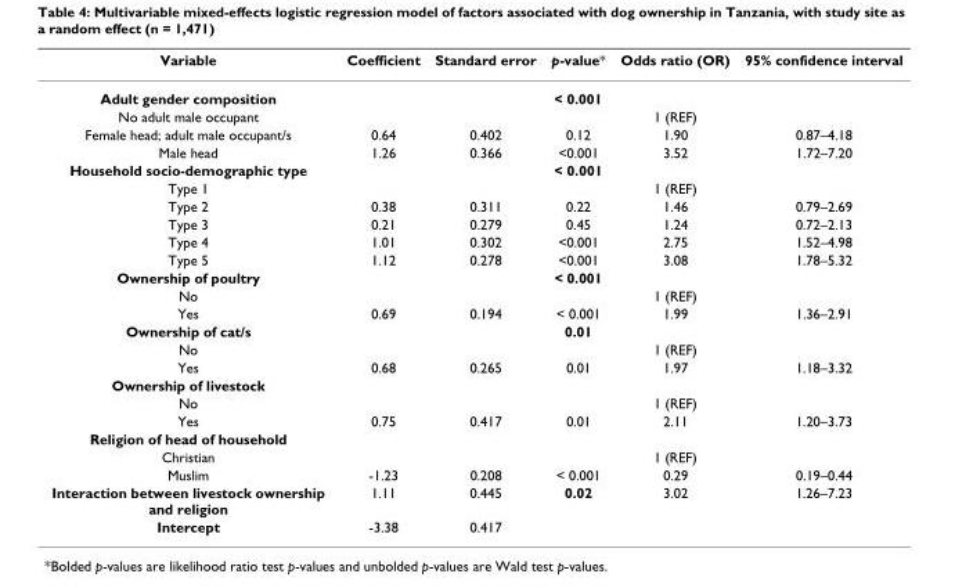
<table><thead><tr><td>Variable</td><td>Coefficient</td><td>Standard error</td><td>p-value*</td><td>Odds ratio (OR)</td><td>95% confidence interval</td></tr></thead><tbody><tr><td>Adult gender composition</td><td></td><td></td><td>&lt; 0.001</td><td></td><td></td></tr><tr><td>No adult male occupant</td><td></td><td></td><td></td><td>1 (REF)</td><td></td></tr><tr><td>Female head; adult male occupant/s</td><td>0.64</td><td>0.402</td><td>0.12</td><td>1.90</td><td>0.87–4.18</td></tr><tr><td>Male head</td><td>1.26</td><td>0.366</td><td>&lt;0.001</td><td>3.52</td><td>1.72–7.20</td></tr><tr><td>Household socio-demographic type</td><td></td><td></td><td>&lt; 0.001</td><td></td><td></td></tr><tr><td>Type 1</td><td></td><td></td><td></td><td>1 (REF)</td><td></td></tr><tr><td>Type 2</td><td>0.38</td><td>0.311</td><td>0.22</td><td>1.46</td><td>0.79–2.69</td></tr><tr><td>Type 3</td><td>0.21</td><td>0.279</td><td>0.45</td><td>1.24</td><td>0.72–2.13</td></tr><tr><td>Type 4</td><td>1.01</td><td>0.302</td><td>&lt;0.001</td><td>2.75</td><td>1.52–4.98</td></tr><tr><td>Type 5</td><td>1.12</td><td>0.278</td><td>&lt;0.001</td><td>3.08</td><td>1.78–5.32</td></tr><tr><td>Ownership of poultry</td><td></td><td></td><td>&lt; 0.001</td><td></td><td></td></tr><tr><td>No</td><td></td><td></td><td></td><td>1 (REF)</td><td></td></tr><tr><td>Yes</td><td>0.69</td><td>0.194</td><td>&lt; 0.001</td><td>1.99</td><td>1.36–2.91</td></tr><tr><td>Ownership of cat/s</td><td></td><td></td><td>0.01</td><td></td><td></td></tr><tr><td>No</td><td></td><td></td><td></td><td>1 (REF)</td><td></td></tr><tr><td>Yes</td><td>0.68</td><td>0.265</td><td>0.01</td><td>1.97</td><td>1.18–3.32</td></tr><tr><td colspan="6">Ownership of livestock</td></tr><tr><td>No</td><td></td><td></td><td></td><td>1 (REF)</td><td></td></tr><tr><td>Yes</td><td>0.75</td><td>0.417</td><td>0.01</td><td>2.11</td><td>1.20–3.73</td></tr><tr><td colspan="6">Religion of head of household</td></tr><tr><td>Christian</td><td></td><td></td><td></td><td>1 (REF)</td><td></td></tr><tr><td>Muslim</td><td>-1.23</td><td>0.208</td><td>&lt; 0.001</td><td>0.29</td><td>0.19–0.44</td></tr><tr><td>Interaction between livestock ownership and religion</td><td>1.11</td><td>0.445</td><td>0.02</td><td>3.02</td><td>1.26–7.23</td></tr><tr><td>Intercept</td><td>-3.38</td><td>0.417</td><td></td><td></td><td></td></tr></tbody></table>